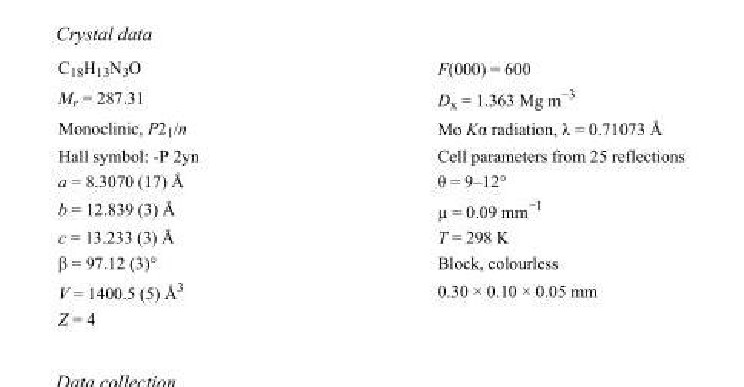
<table><tbody><tr><td>C<sub>18</sub>H<sub>13</sub>N<sub>3</sub>O</td><td>F(000) = 600</td></tr><tr><td>M<sub>r</sub> = 287.31</td><td>D<sub>x</sub> = 1.363 Mg m<sup>−3</sup></td></tr><tr><td>Monoclinic, P2<sub>1</sub>/n</td><td>Mo Kα radiation, λ = 0.71073 Å</td></tr><tr><td>Hall symbol: -P 2yn</td><td>Cell parameters from 25 reflections</td></tr><tr><td>a = 8.3070 (17) Å</td><td>θ = 9–12°</td></tr><tr><td>b = 12.839 (3) Å</td><td>µ = 0.09 mm<sup>−1</sup></td></tr><tr><td>c = 13.233 (3) Å</td><td>T = 298 K</td></tr><tr><td>β = 97.12 (3)°</td><td>Block, colourless</td></tr><tr><td>V = 1400.5 (5) Å<sup>3</sup></td><td>0.30 × 0.10 × 0.05 mm</td></tr><tr><td>Z = 4</td><td></td></tr></tbody></table>